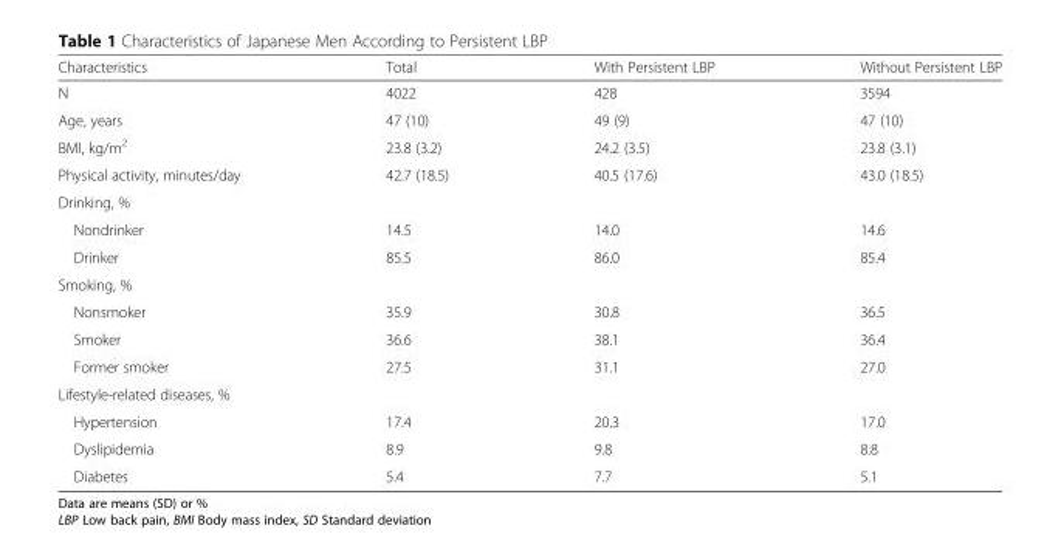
<table><thead><tr><td>Characteristics</td><td>Total</td><td>With Persistent LBP</td><td>Without Persistent LBP</td></tr></thead><tbody><tr><td>N</td><td>4022</td><td>428</td><td>3594</td></tr><tr><td>Age, years</td><td>47 (10)</td><td>49 (9)</td><td>47 (10)</td></tr><tr><td>BMI, kg/m<sup>2</sup></td><td>23.8 (3.2)</td><td>24.2 (3.5)</td><td>23.8 (3.1)</td></tr><tr><td>Physical activity, minutes/day</td><td>42.7 (18.5)</td><td>40.5 (17.6)</td><td>43.0 (18.5)</td></tr><tr><td colspan="4">Drinking, %</td></tr><tr><td>Nondrinker</td><td>14.5</td><td>14.0</td><td>14.6</td></tr><tr><td>Drinker</td><td>85.5</td><td>86.0</td><td>85.4</td></tr><tr><td colspan="4">Smoking, %</td></tr><tr><td>Nonsmoker</td><td>35.9</td><td>30.8</td><td>36.5</td></tr><tr><td>Smoker</td><td>36.6</td><td>38.1</td><td>36.4</td></tr><tr><td>Former smoker</td><td>27.5</td><td>31.1</td><td>27.0</td></tr><tr><td colspan="4">Lifestyle-related diseases, %</td></tr><tr><td>Hypertension</td><td>17.4</td><td>20.3</td><td>17.0</td></tr><tr><td>Dyslipidemia</td><td>8.9</td><td>9.8</td><td>8.8</td></tr><tr><td>Diabetes</td><td>5.4</td><td>7.7</td><td>5.1</td></tr></tbody></table>